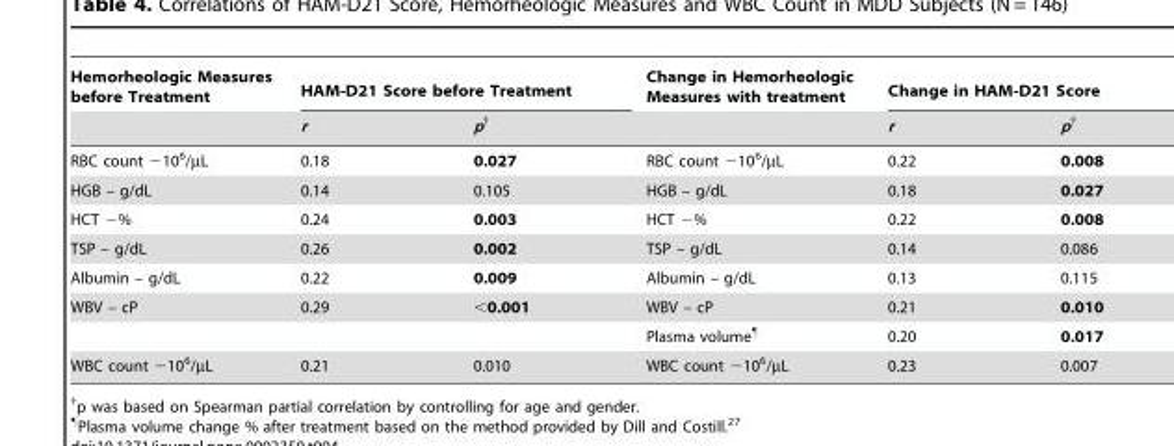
<table><thead><tr><td rowspan="2">Hemorheologic Measures before Treatment</td><td colspan="2">HAM-D21 Score before Treatment</td><td rowspan="2">Change in Hemorheologic Measures with treatment</td><td colspan="2">Change in HAM-D21 Score</td></tr><tr><td>r</td><td>p†</td><td>r</td><td>p†</td></tr></thead><tbody><tr><td>RBC count −10<sup>6</sup>/µL</td><td>0.18</td><td>0.027</td><td>RBC count −10<sup>6</sup>/µL</td><td>0.22</td><td>0.008</td></tr><tr><td>HGB – g/dL</td><td>0.14</td><td>0.105</td><td>HGB – g/dL</td><td>0.18</td><td>0.027</td></tr><tr><td>HCT −%</td><td>0.24</td><td>0.003</td><td>HCT −%</td><td>0.22</td><td>0.008</td></tr><tr><td>TSP – g/dL</td><td>0.26</td><td>0.002</td><td>TSP – g/dL</td><td>0.14</td><td>0.086</td></tr><tr><td>Albumin – g/dL</td><td>0.22</td><td>0.009</td><td>Albumin – g/dL</td><td>0.13</td><td>0.115</td></tr><tr><td rowspan="2">WBV – cP</td><td>0.29</td><td>&lt;0.001</td><td>WBV – cP</td><td>0.21</td><td>0.010</td></tr><tr><td></td><td></td><td>Plasma volume¶</td><td>0.20</td><td>0.017</td></tr><tr><td>WBC count −10<sup>6</sup>/µL</td><td>0.21</td><td>0.010</td><td>WBC count −10<sup>6</sup>/µL</td><td>0.23</td><td>0.007</td></tr></tbody></table>